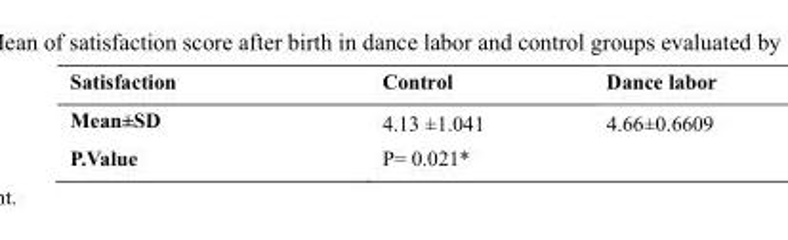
<table><thead><tr><td>Satisfaction</td><td>Control</td><td>Dance labor</td></tr></thead><tbody><tr><td>Mean±SD</td><td>4.13 ±1.041</td><td>4.66±0.6609</td></tr><tr><td>P.Value</td><td colspan="2">P= 0.021*</td></tr></tbody></table>